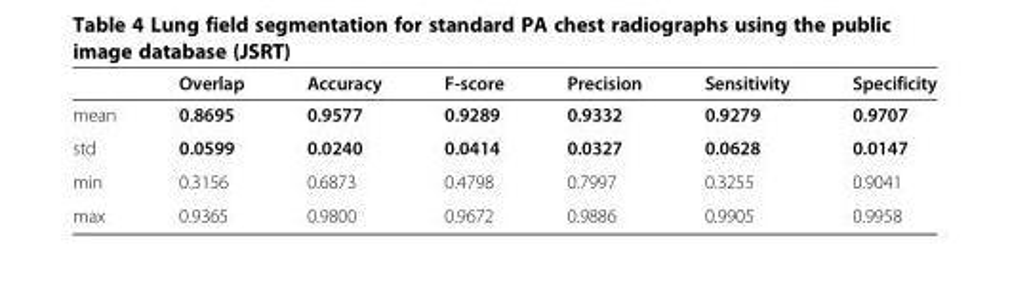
<table><thead><tr><td></td><td>Overlap</td><td>Accuracy</td><td>F-score</td><td>Precision</td><td>Sensitivity</td><td>Specificity</td></tr></thead><tbody><tr><td>mean</td><td>0.8695</td><td>0.9577</td><td>0.9289</td><td>0.9332</td><td>0.9279</td><td>0.9707</td></tr><tr><td>std</td><td>0.0599</td><td>0.0240</td><td>0.0414</td><td>0.0327</td><td>0.0628</td><td>0.0147</td></tr><tr><td>min</td><td>0.3156</td><td>0.6873</td><td>0.4798</td><td>0.7997</td><td>0.3255</td><td>0.9041</td></tr><tr><td>max</td><td>0.9365</td><td>0.9800</td><td>0.9672</td><td>0.9886</td><td>0.9905</td><td>0.9958</td></tr></tbody></table>